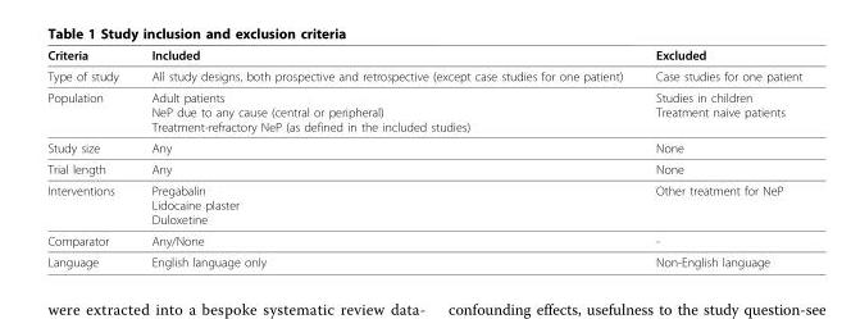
<table><thead><tr><td>Criteria</td><td>Included</td><td>Excluded</td></tr></thead><tbody><tr><td>Type of study</td><td>All study designs, both prospective and retrospective (except case studies for one patient)</td><td>Case studies for one patient</td></tr><tr><td>Population</td><td>Adult patients NeP due to any cause (central or peripheral) Treatment-refractory NeP (as defined in the included studies)</td><td>Studies in children Treatment naive patients</td></tr><tr><td>Study size</td><td>Any</td><td>None</td></tr><tr><td>Trial length</td><td>Any</td><td>None</td></tr><tr><td>Interventions</td><td>Pregabalin Lidocaine plaster Duloxetine</td><td>Other treatment for NeP</td></tr><tr><td>Comparator</td><td>Any/None</td><td>-</td></tr><tr><td>Language</td><td>English language only</td><td>Non-English language</td></tr></tbody></table>